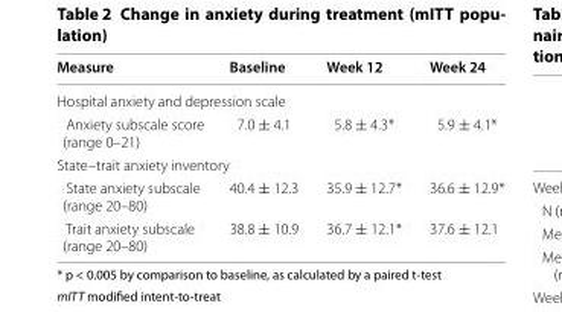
<table><thead><tr><td>Measure</td><td>Baseline</td><td>Week 12</td><td>Week 24</td></tr></thead><tbody><tr><td colspan="4">Hospital anxiety and depression scale</td></tr><tr><td>Anxiety subscale score (range 0–21)</td><td>7.0 ± 4.1</td><td>5.8 ± 4.3*</td><td>5.9 ± 4.1*</td></tr><tr><td colspan="4">State–trait anxiety inventory</td></tr><tr><td>State anxiety subscale (range 20–80)</td><td>40.4 ± 12.3</td><td>35.9 ± 12.7*</td><td>36.6 ± 12.9*</td></tr><tr><td>Trait anxiety subscale (range 20–80)</td><td>38.8 ± 10.9</td><td>36.7 ± 12.1*</td><td>37.6 ± 12.1</td></tr></tbody></table>